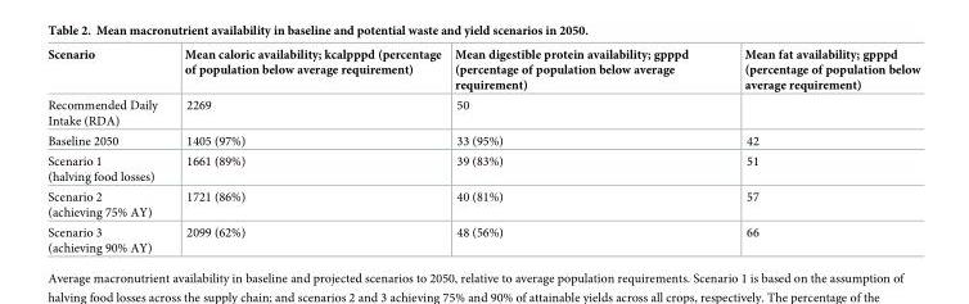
<table><thead><tr><td>Scenario</td><td>Mean caloric availability; kcalpppd (percentage of population below average requirement)</td><td>Mean digestible protein availability; gpppd (percentage of population below average requirement)</td><td>Mean fat availability; gpppd (percentage of population below average requirement)</td></tr></thead><tbody><tr><td>Recommended Daily Intake (RDA)</td><td>2269</td><td>50</td><td></td></tr><tr><td>Baseline 2050</td><td>1405 (97%)</td><td>33 (95%)</td><td>42</td></tr><tr><td>Scenario 1 (halving food losses)</td><td>1661 (89%)</td><td>39 (83%)</td><td>51</td></tr><tr><td>Scenario 2 (achieving 75% AY)</td><td>1721 (86%)</td><td>40 (81%)</td><td>57</td></tr><tr><td>Scenario 3 (achieving 90% AY)</td><td>2099 (62%)</td><td>48 (56%)</td><td>66</td></tr></tbody></table>